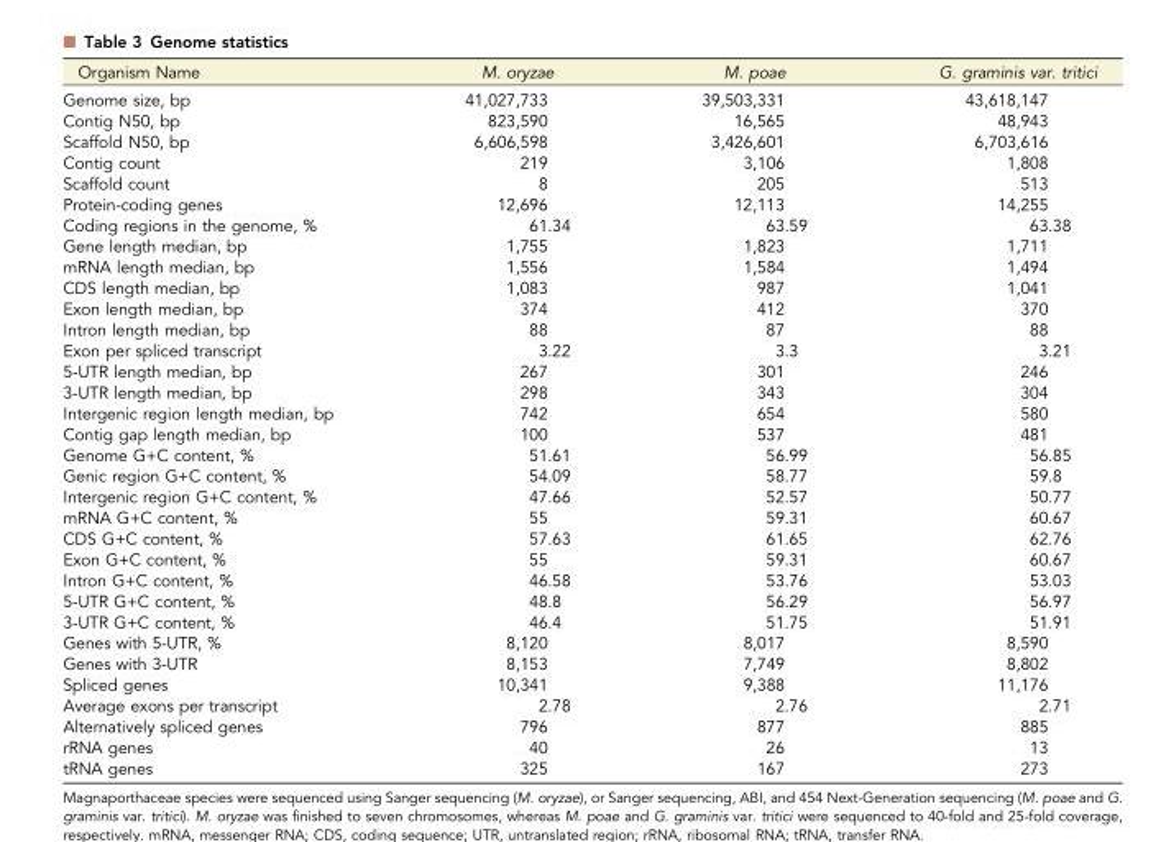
<table><thead><tr><td>Organism Name</td><td>M. oryzae</td><td>M. poae</td><td>G. graminis var. tritici</td></tr></thead><tbody><tr><td>Genome size, bp</td><td>41,027,733</td><td>39,503,331</td><td>43,618,147</td></tr><tr><td>Contig N50, bp</td><td>823,590</td><td>16,565</td><td>48,943</td></tr><tr><td>Scaffold N50, bp</td><td>6,606,598</td><td>3,426,601</td><td>6,703,616</td></tr><tr><td>Contig count</td><td>219</td><td>3,106</td><td>1,808</td></tr><tr><td>Scaffold count</td><td>8</td><td>205</td><td>513</td></tr><tr><td>Protein-coding genes</td><td>12,696</td><td>12,113</td><td>14,255</td></tr><tr><td>Coding regions in the genome, %</td><td>61.34</td><td>63.59</td><td>63.38</td></tr><tr><td>Gene length median, bp</td><td>1,755</td><td>1,823</td><td>1,711</td></tr><tr><td>mRNA length median, bp</td><td>1,556</td><td>1,584</td><td>1,494</td></tr><tr><td>CDS length median, bp</td><td>1,083</td><td>987</td><td>1,041</td></tr><tr><td>Exon length median, bp</td><td>374</td><td>412</td><td>370</td></tr><tr><td>Intron length median, bp</td><td>88</td><td>87</td><td>88</td></tr><tr><td>Exon per spliced transcript</td><td>3.22</td><td>3.3</td><td>3.21</td></tr><tr><td>5-UTR length median, bp</td><td>267</td><td>301</td><td>246</td></tr><tr><td>3-UTR length median, bp</td><td>298</td><td>343</td><td>304</td></tr><tr><td>Intergenic region length median, bp</td><td>742</td><td>654</td><td>580</td></tr><tr><td>Contig gap length median, bp</td><td>100</td><td>537</td><td>481</td></tr><tr><td>Genome G+C content, %</td><td>51.61</td><td>56.99</td><td>56.85</td></tr><tr><td>Genic region G+C content, %</td><td>54.09</td><td>58.77</td><td>59.8</td></tr><tr><td>Intergenic region G+C content, %</td><td>47.66</td><td>52.57</td><td>50.77</td></tr><tr><td>mRNA G+C content, %</td><td>55</td><td>59.31</td><td>60.67</td></tr><tr><td>CDS G+C content, %</td><td>57.63</td><td>61.65</td><td>62.76</td></tr><tr><td>Exon G+C content, %</td><td>55</td><td>59.31</td><td>60.67</td></tr><tr><td>Intron G+C content, %</td><td>46.58</td><td>53.76</td><td>53.03</td></tr><tr><td>5-UTR G+C content, %</td><td>48.8</td><td>56.29</td><td>56.97</td></tr><tr><td>3-UTR G+C content, %</td><td>46.4</td><td>51.75</td><td>51.91</td></tr><tr><td>Genes with 5-UTR, %</td><td>8,120</td><td>8,017</td><td>8,590</td></tr><tr><td>Genes with 3-UTR</td><td>8,153</td><td>7,749</td><td>8,802</td></tr><tr><td>Spliced genes</td><td>10,341</td><td>9,388</td><td>11,176</td></tr><tr><td>Average exons per transcript</td><td>2.78</td><td>2.76</td><td>2.71</td></tr><tr><td>Alternatively spliced genes</td><td>796</td><td>877</td><td>885</td></tr><tr><td>rRNA genes</td><td>40</td><td>26</td><td>13</td></tr><tr><td>tRNA genes</td><td>325</td><td>167</td><td>273</td></tr></tbody></table>